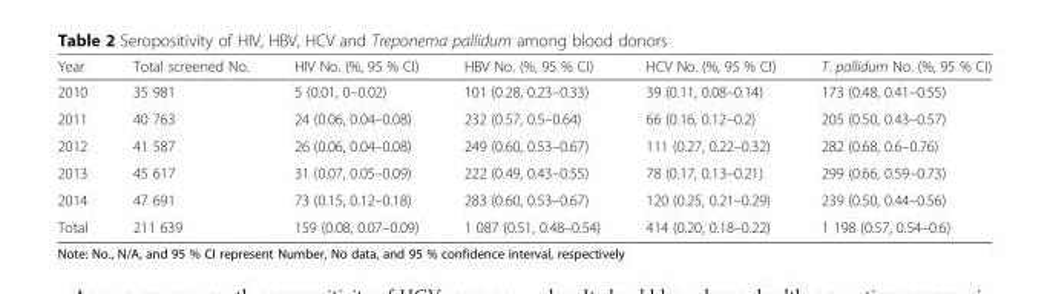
<table><thead><tr><td>Year</td><td>Total screened No.</td><td>HIV No. (%, 95 % CI)</td><td>HBV No. (%, 95 % CI)</td><td>HCV No. (%, 95 % CI)</td><td>T. pallidum No. (%, 95 % CI)</td></tr></thead><tbody><tr><td>2010</td><td>35 981</td><td>5 (0.01, 0–0.02)</td><td>101 (0.28, 0.23–0.33)</td><td>39 (0.11, 0.08–0.14)</td><td>173 (0.48, 0.41–0.55)</td></tr><tr><td>2011</td><td>40 763</td><td>24 (0.06, 0.04–0.08)</td><td>232 (0.57, 0.5–0.64)</td><td>66 (0.16, 0.12–0.2)</td><td>205 (0.50, 0.43–0.57)</td></tr><tr><td>2012</td><td>41 587</td><td>26 (0.06, 0.04–0.08)</td><td>249 (0.60, 0.53–0.67)</td><td>111 (0.27, 0.22–0.32)</td><td>282 (0.68, 0.6–0.76)</td></tr><tr><td>2013</td><td>45 617</td><td>31 (0.07, 0.05–0.09)</td><td>222 (0.49, 0.43–0.55)</td><td>78 (0.17, 0.13–0.21)</td><td>299 (0.66, 0.59–0.73)</td></tr><tr><td>2014</td><td>47 691</td><td>73 (0.15, 0.12–0.18)</td><td>283 (0.60, 0.53–0.67)</td><td>120 (0.25, 0.21–0.29)</td><td>239 (0.50, 0.44–0.56)</td></tr><tr><td>Total</td><td>211 639</td><td>159 (0.08, 0.07–0.09)</td><td>1 087 (0.51, 0.48–0.54)</td><td>414 (0.20, 0.18–0.22)</td><td>1 198 (0.57, 0.54–0.6)</td></tr></tbody></table>